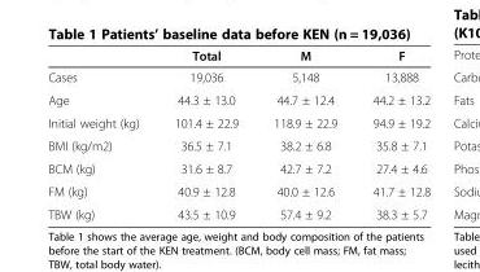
<table><thead><tr><td></td><td>Total</td><td>M</td><td>F</td></tr></thead><tbody><tr><td>Cases</td><td>19,036</td><td>5,148</td><td>13,888</td></tr><tr><td>Age</td><td>44.3 ± 13.0</td><td>44.7 ± 12.4</td><td>44.2 ± 13.2</td></tr><tr><td>Initial weight (kg)</td><td>101.4 ± 22.9</td><td>118.9 ± 22.9</td><td>94.9 ± 19.2</td></tr><tr><td>BMI (kg/m2)</td><td>36.5 ± 7.1</td><td>38.2 ± 6.8</td><td>35.8 ± 7.1</td></tr><tr><td>BCM (kg)</td><td>31.6 ± 8.7</td><td>42.7 ± 7.2</td><td>27.4 ± 4.6</td></tr><tr><td>FM (kg)</td><td>40.9 ± 12.8</td><td>40.0 ± 12.6</td><td>41.7 ± 12.8</td></tr><tr><td>TBW (kg)</td><td>43.5 ± 10.9</td><td>57.4 ± 9.2</td><td>38.3 ± 5.7</td></tr></tbody></table>